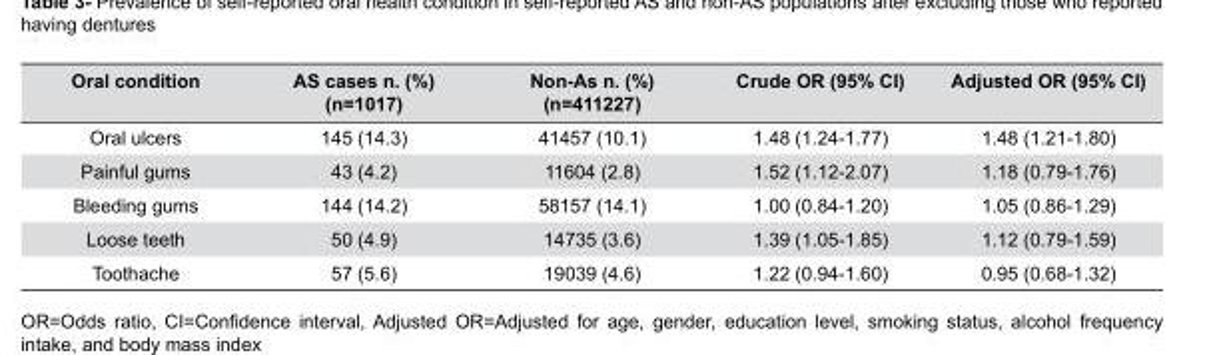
<table><thead><tr><td>Oral condition</td><td>AS cases n. (%) (n=1017)</td><td>Non-As n. (%) (n=411227)</td><td>Crude OR (95% CI)</td><td>Adjusted OR (95% CI)</td></tr></thead><tbody><tr><td>Oral ulcers</td><td>145 (14.3)</td><td>41457 (10.1)</td><td>1.48 (1.24-1.77)</td><td>1.48 (1.21-1.80)</td></tr><tr><td>Painful gums</td><td>43 (4.2)</td><td>11604 (2.8)</td><td>1.52 (1.12-2.07)</td><td>1.18 (0.79-1.76)</td></tr><tr><td>Bleeding gums</td><td>144 (14.2)</td><td>58157 (14.1)</td><td>1.00 (0.84-1.20)</td><td>1.05 (0.86-1.29)</td></tr><tr><td>Loose teeth</td><td>50 (4.9)</td><td>14735 (3.6)</td><td>1.39 (1.05-1.85)</td><td>1.12 (0.79-1.59)</td></tr><tr><td>Toothache</td><td>57 (5.6)</td><td>19039 (4.6)</td><td>1.22 (0.94-1.60)</td><td>0.95 (0.68-1.32)</td></tr></tbody></table>